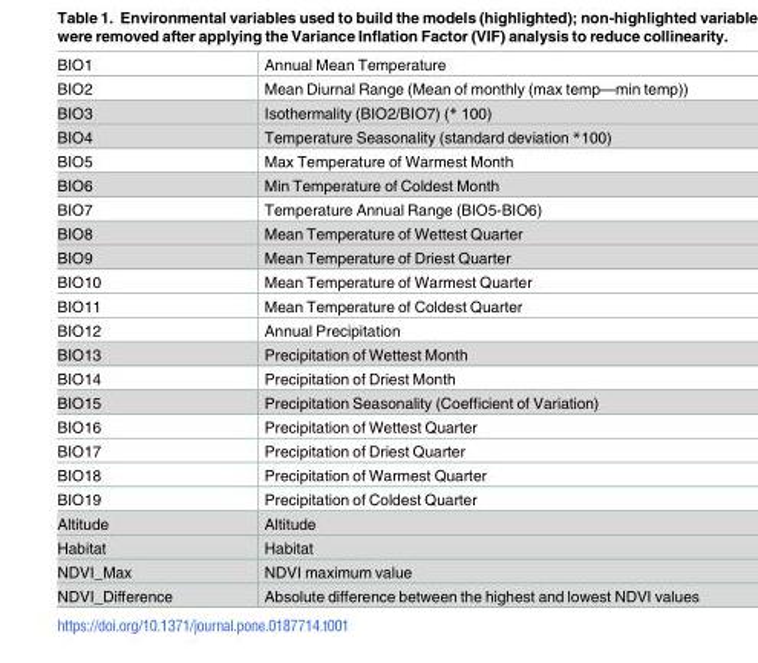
<table><tbody><tr><td>BIO1</td><td>Annual Mean Temperature</td></tr><tr><td>BIO2</td><td>Mean Diurnal Range (Mean of monthly (max temp—min temp))</td></tr><tr><td>BIO3</td><td>Isothermality (BIO2/BIO7) (* 100)</td></tr><tr><td>BIO4</td><td>Temperature Seasonality (standard deviation *100)</td></tr><tr><td>BIO5</td><td>Max Temperature of Warmest Month</td></tr><tr><td>BIO6</td><td>Min Temperature of Coldest Month</td></tr><tr><td>BIO7</td><td>Temperature Annual Range (BIO5-BIO6)</td></tr><tr><td>BIO8</td><td>Mean Temperature of Wettest Quarter</td></tr><tr><td>BIO9</td><td>Mean Temperature of Driest Quarter</td></tr><tr><td>BIO10</td><td>Mean Temperature of Warmest Quarter</td></tr><tr><td>BIO11</td><td>Mean Temperature of Coldest Quarter</td></tr><tr><td>BIO12</td><td>Annual Precipitation</td></tr><tr><td>BIO13</td><td>Precipitation of Wettest Month</td></tr><tr><td>BIO14</td><td>Precipitation of Driest Month</td></tr><tr><td>BIO15</td><td>Precipitation Seasonality (Coefficient of Variation)</td></tr><tr><td>BIO16</td><td>Precipitation of Wettest Quarter</td></tr><tr><td>BIO17</td><td>Precipitation of Driest Quarter</td></tr><tr><td>BIO18</td><td>Precipitation of Warmest Quarter</td></tr><tr><td>BIO19</td><td>Precipitation of Coldest Quarter</td></tr><tr><td>Altitude</td><td>Altitude</td></tr><tr><td>Habitat</td><td>Habitat</td></tr><tr><td>NDVI_Max</td><td>NDVI maximum value</td></tr><tr><td>NDVI_Difference</td><td>Absolute difference between the highest and lowest NDVI values</td></tr></tbody></table>